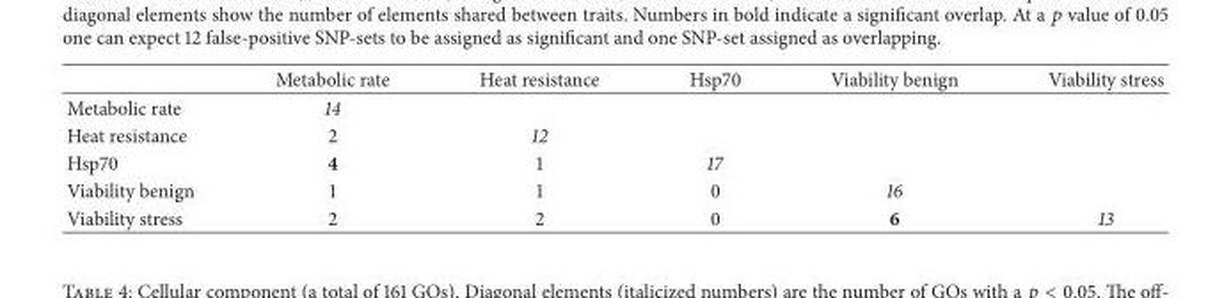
<table><thead><tr><td></td><td>Metabolic rate</td><td>Heat resistance</td><td>Hsp70</td><td>Viability benign</td><td>Viability stress</td></tr></thead><tbody><tr><td>Metabolic rate</td><td>14</td><td></td><td></td><td></td><td></td></tr><tr><td>Heat resistance</td><td>2</td><td>12</td><td></td><td></td><td></td></tr><tr><td>Hsp70</td><td>4</td><td>1</td><td>17</td><td></td><td></td></tr><tr><td>Viability benign</td><td>1</td><td>1</td><td>0</td><td>16</td><td></td></tr><tr><td>Viability stress</td><td>2</td><td>2</td><td>0</td><td>6</td><td>13</td></tr></tbody></table>